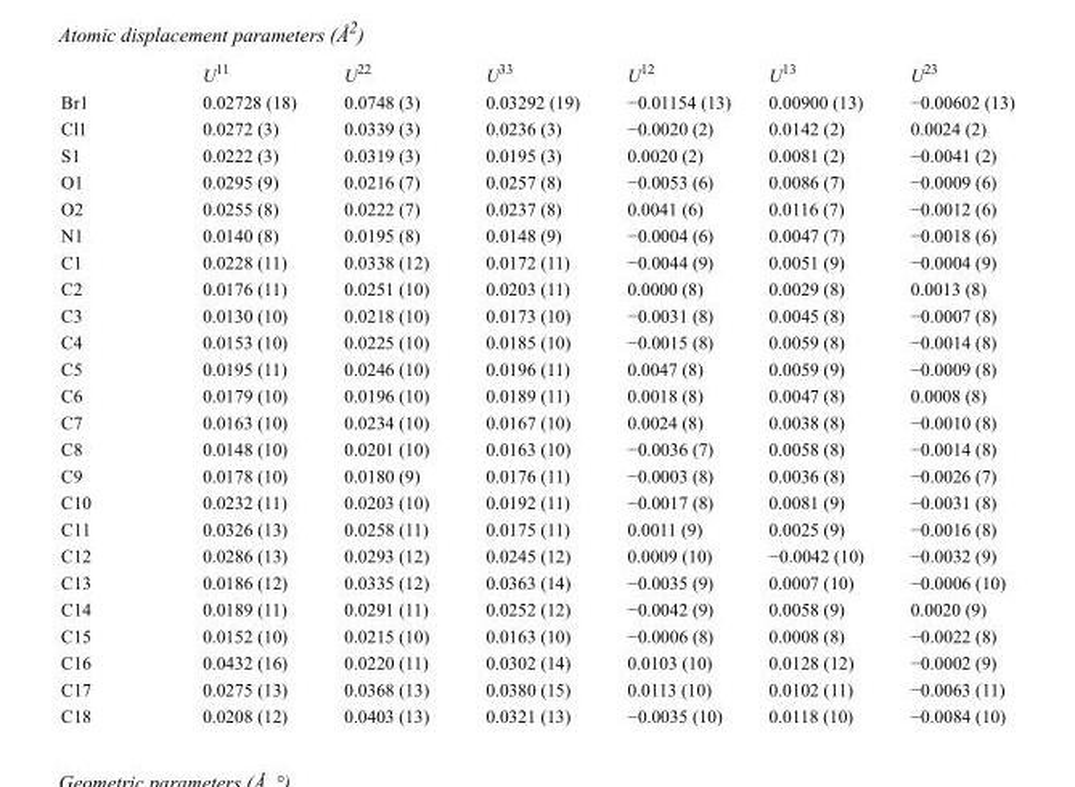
<table><thead><tr><td></td><td>U<sup>11</sup></td><td>U<sup>22</sup></td><td>U<sup>33</sup></td><td>U<sup>12</sup></td><td>U<sup>13</sup></td><td>U<sup>23</sup></td></tr></thead><tbody><tr><td>Br1</td><td>0.02728 (18)</td><td>0.0748 (3)</td><td>0.03292 (19)</td><td>−0.01154 (13)</td><td>0.00900 (13)</td><td>−0.00602 (13)</td></tr><tr><td>Cl1</td><td>0.0272 (3)</td><td>0.0339 (3)</td><td>0.0236 (3)</td><td>−0.0020 (2)</td><td>0.0142 (2)</td><td>0.0024 (2)</td></tr><tr><td>S1</td><td>0.0222 (3)</td><td>0.0319 (3)</td><td>0.0195 (3)</td><td>0.0020 (2)</td><td>0.0081 (2)</td><td>−0.0041 (2)</td></tr><tr><td>O1</td><td>0.0295 (9)</td><td>0.0216 (7)</td><td>0.0257 (8)</td><td>−0.0053 (6)</td><td>0.0086 (7)</td><td>−0.0009 (6)</td></tr><tr><td>O2</td><td>0.0255 (8)</td><td>0.0222 (7)</td><td>0.0237 (8)</td><td>0.0041 (6)</td><td>0.0116 (7)</td><td>−0.0012 (6)</td></tr><tr><td>N1</td><td>0.0140 (8)</td><td>0.0195 (8)</td><td>0.0148 (9)</td><td>−0.0004 (6)</td><td>0.0047 (7)</td><td>−0.0018 (6)</td></tr><tr><td>C1</td><td>0.0228 (11)</td><td>0.0338 (12)</td><td>0.0172 (11)</td><td>−0.0044 (9)</td><td>0.0051 (9)</td><td>−0.0004 (9)</td></tr><tr><td>C2</td><td>0.0176 (11)</td><td>0.0251 (10)</td><td>0.0203 (11)</td><td>0.0000 (8)</td><td>0.0029 (8)</td><td>0.0013 (8)</td></tr><tr><td>C3</td><td>0.0130 (10)</td><td>0.0218 (10)</td><td>0.0173 (10)</td><td>−0.0031 (8)</td><td>0.0045 (8)</td><td>−0.0007 (8)</td></tr><tr><td>C4</td><td>0.0153 (10)</td><td>0.0225 (10)</td><td>0.0185 (10)</td><td>−0.0015 (8)</td><td>0.0059 (8)</td><td>−0.0014 (8)</td></tr><tr><td>C5</td><td>0.0195 (11)</td><td>0.0246 (10)</td><td>0.0196 (11)</td><td>0.0047 (8)</td><td>0.0059 (9)</td><td>−0.0009 (8)</td></tr><tr><td>C6</td><td>0.0179 (10)</td><td>0.0196 (10)</td><td>0.0189 (11)</td><td>0.0018 (8)</td><td>0.0047 (8)</td><td>0.0008 (8)</td></tr><tr><td>C7</td><td>0.0163 (10)</td><td>0.0234 (10)</td><td>0.0167 (10)</td><td>0.0024 (8)</td><td>0.0038 (8)</td><td>−0.0010 (8)</td></tr><tr><td>C8</td><td>0.0148 (10)</td><td>0.0201 (10)</td><td>0.0163 (10)</td><td>−0.0036 (7)</td><td>0.0058 (8)</td><td>−0.0014 (8)</td></tr><tr><td>C9</td><td>0.0178 (10)</td><td>0.0180 (9)</td><td>0.0176 (11)</td><td>−0.0003 (8)</td><td>0.0036 (8)</td><td>−0.0026 (7)</td></tr><tr><td>C10</td><td>0.0232 (11)</td><td>0.0203 (10)</td><td>0.0192 (11)</td><td>−0.0017 (8)</td><td>0.0081 (9)</td><td>−0.0031 (8)</td></tr><tr><td>C11</td><td>0.0326 (13)</td><td>0.0258 (11)</td><td>0.0175 (11)</td><td>0.0011 (9)</td><td>0.0025 (9)</td><td>−0.0016 (8)</td></tr><tr><td>C12</td><td>0.0286 (13)</td><td>0.0293 (12)</td><td>0.0245 (12)</td><td>0.0009 (10)</td><td>−0.0042 (10)</td><td>−0.0032 (9)</td></tr><tr><td>C13</td><td>0.0186 (12)</td><td>0.0335 (12)</td><td>0.0363 (14)</td><td>−0.0035 (9)</td><td>0.0007 (10)</td><td>−0.0006 (10)</td></tr><tr><td>C14</td><td>0.0189 (11)</td><td>0.0291 (11)</td><td>0.0252 (12)</td><td>−0.0042 (9)</td><td>0.0058 (9)</td><td>0.0020 (9)</td></tr><tr><td>C15</td><td>0.0152 (10)</td><td>0.0215 (10)</td><td>0.0163 (10)</td><td>−0.0006 (8)</td><td>0.0008 (8)</td><td>−0.0022 (8)</td></tr><tr><td>C16</td><td>0.0432 (16)</td><td>0.0220 (11)</td><td>0.0302 (14)</td><td>0.0103 (10)</td><td>0.0128 (12)</td><td>−0.0002 (9)</td></tr><tr><td>C17</td><td>0.0275 (13)</td><td>0.0368 (13)</td><td>0.0380 (15)</td><td>0.0113 (10)</td><td>0.0102 (11)</td><td>−0.0063 (11)</td></tr><tr><td>C18</td><td>0.0208 (12)</td><td>0.0403 (13)</td><td>0.0321 (13)</td><td>−0.0035 (10)</td><td>0.0118 (10)</td><td>−0.0084 (10)</td></tr></tbody></table>